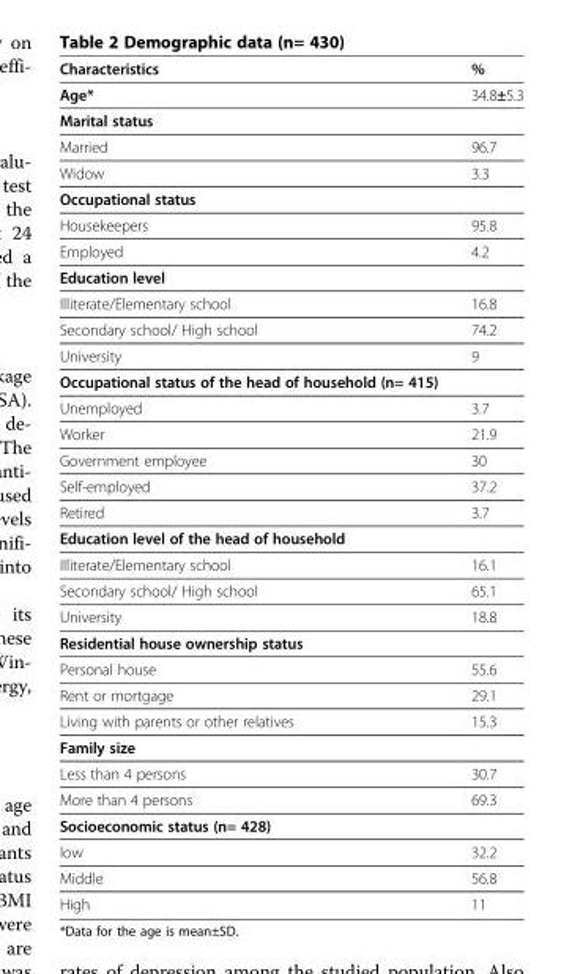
<table><thead><tr><td>Characteristics</td><td>%</td></tr></thead><tbody><tr><td>Age*</td><td>34.8±5.3</td></tr><tr><td colspan="2">Marital status</td></tr><tr><td>Married</td><td>96.7</td></tr><tr><td>Widow</td><td>3.3</td></tr><tr><td colspan="2">Occupational status</td></tr><tr><td>Housekeepers</td><td>95.8</td></tr><tr><td>Employed</td><td>4.2</td></tr><tr><td colspan="2">Education level</td></tr><tr><td>Illiterate/Elementary school</td><td>16.8</td></tr><tr><td>Secondary school/ High school</td><td>74.2</td></tr><tr><td>University</td><td>9</td></tr><tr><td colspan="2">Occupational status of the head of household (n= 415)</td></tr><tr><td>Unemployed</td><td>3.7</td></tr><tr><td>Worker</td><td>21.9</td></tr><tr><td>Government employee</td><td>30</td></tr><tr><td>Self-employed</td><td>37.2</td></tr><tr><td>Retired</td><td>3.7</td></tr><tr><td colspan="2">Education level of the head of household</td></tr><tr><td>Illiterate/Elementary school</td><td>16.1</td></tr><tr><td>Secondary school/ High school</td><td>65.1</td></tr><tr><td>University</td><td>18.8</td></tr><tr><td colspan="2">Residential house ownership status</td></tr><tr><td>Personal house</td><td>55.6</td></tr><tr><td>Rent or mortgage</td><td>29.1</td></tr><tr><td>Living with parents or other relatives</td><td>15.3</td></tr><tr><td colspan="2">Family size</td></tr><tr><td>Less than 4 persons</td><td>30.7</td></tr><tr><td>More than 4 persons</td><td>69.3</td></tr><tr><td colspan="2">Socioeconomic status (n= 428)</td></tr><tr><td>low</td><td>32.2</td></tr><tr><td>Middle</td><td>56.8</td></tr><tr><td>High</td><td>11</td></tr></tbody></table>